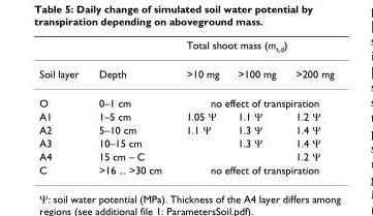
<table><thead><tr><td rowspan="2">Soil layer</td><td rowspan="2">Depth</td><td colspan="3">Total shoot mass (m<sub>t,d</sub>)</td></tr><tr><td>&gt;10 mg</td><td>&gt;100 mg</td><td>&gt;200 mg</td></tr></thead><tbody><tr><td>O</td><td>0–1 cm</td><td colspan="3">no effect of transpiration</td></tr><tr><td>A1</td><td>1–5 cm</td><td>1.05 Ψ</td><td>1.1 Ψ</td><td>1.2 Ψ</td></tr><tr><td>A2</td><td>5–10 cm</td><td>1.1 Ψ</td><td>1.3 Ψ</td><td>1.4 Ψ</td></tr><tr><td>A3</td><td>10–15 cm</td><td></td><td>1.3 Ψ</td><td>1.4 Ψ</td></tr><tr><td>A4</td><td>15 cm – C</td><td></td><td></td><td>1.2 Ψ</td></tr><tr><td>C</td><td>&gt;16 ... &gt;30 cm</td><td colspan="3">no effect of transpiration</td></tr></tbody></table>